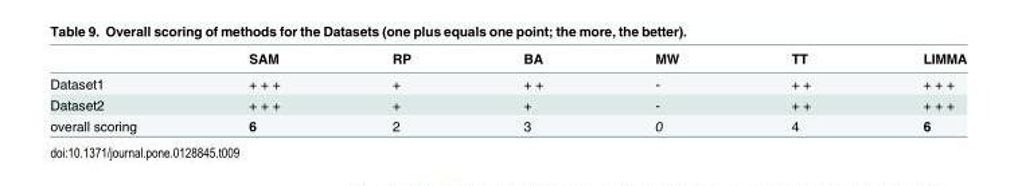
<table><thead><tr><td></td><td>SAM</td><td>RP</td><td>BA</td><td>MW</td><td>TT</td><td>LIMMA</td></tr></thead><tbody><tr><td>Dataset1</td><td>+ + +</td><td>+</td><td>+ +</td><td>-</td><td>+ +</td><td>+ + +</td></tr><tr><td>Dataset2</td><td>+ + +</td><td>+</td><td>+</td><td>-</td><td>+ +</td><td>+ + +</td></tr><tr><td>overall scoring</td><td>6</td><td>2</td><td>3</td><td>0</td><td>4</td><td>6</td></tr></tbody></table>